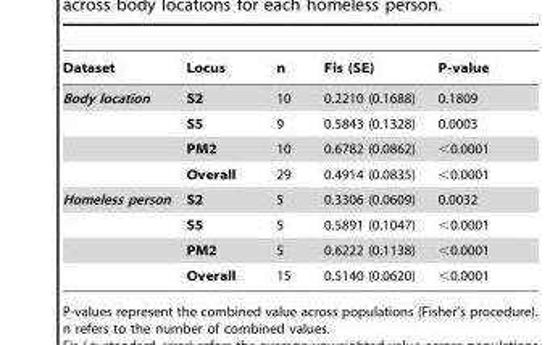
<table><thead><tr><td>Dataset</td><td>Locus</td><td>n</td><td>Fis (SE)</td><td>P-value</td></tr></thead><tbody><tr><td rowspan="4">Body location</td><td>S2</td><td>10</td><td>0.2210 (0.1688)</td><td>0.1809</td></tr><tr><td>S5</td><td>9</td><td>0.5843 (0.1328)</td><td>0.0003</td></tr><tr><td>PM2</td><td>10</td><td>0.6782 (0.0862)</td><td>&lt;0.0001</td></tr><tr><td>Overall</td><td>29</td><td>0.4914 (0.0835)</td><td>&lt;0.0001</td></tr><tr><td rowspan="4">Homeless person</td><td>S2</td><td>5</td><td>0.3306 (0.0609)</td><td>0.0032</td></tr><tr><td>S5</td><td>5</td><td>0.5891 (0.1047)</td><td>&lt;0.0001</td></tr><tr><td>PM2</td><td>5</td><td>0.6222 (0.1138)</td><td>&lt;0.0001</td></tr><tr><td>Overall</td><td>15</td><td>0.5140 (0.0620)</td><td>&lt;0.0001</td></tr></tbody></table>